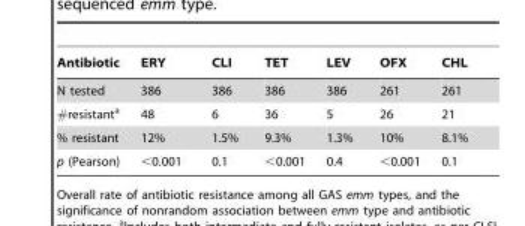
<table><thead><tr><td>Antibiotic</td><td>ERY</td><td>CLI</td><td>TET</td><td>LEV</td><td>OFX</td><td>CHL</td></tr></thead><tbody><tr><td>N tested</td><td>386</td><td>386</td><td>386</td><td>386</td><td>261</td><td>261</td></tr><tr><td>#resistant<sup>a</sup></td><td>48</td><td>6</td><td>36</td><td>5</td><td>26</td><td>21</td></tr><tr><td>% resistant</td><td>12%</td><td>1.5%</td><td>9.3%</td><td>1.3%</td><td>10%</td><td>8.1%</td></tr><tr><td>p (Pearson)</td><td>&lt;0.001</td><td>0.1</td><td>&lt;0.001</td><td>0.4</td><td>&lt;0.001</td><td>0.1</td></tr></tbody></table>